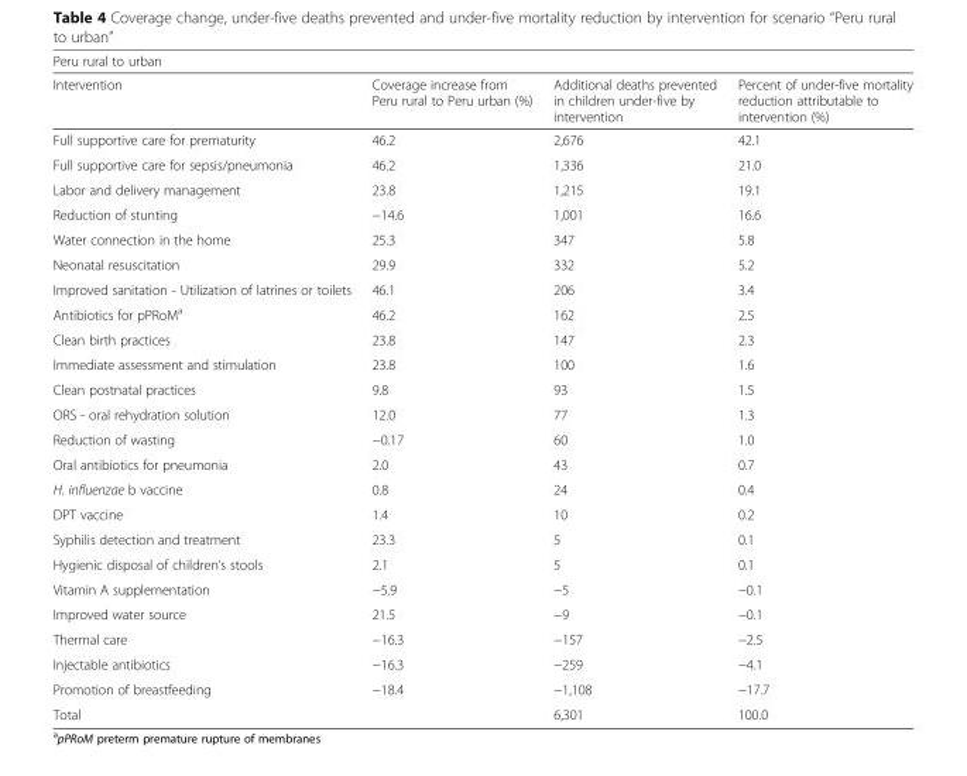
<table><thead><tr><td colspan="4">Peru rural to urban</td></tr><tr><td>Intervention</td><td>Coverage increase from Peru rural to Peru urban (%)</td><td>Additional deaths prevented in children under-five by intervention</td><td>Percent of under-five mortality reduction attributable to intervention (%)</td></tr></thead><tbody><tr><td>Full supportive care for prematurity</td><td>46.2</td><td>2,676</td><td>42.1</td></tr><tr><td>Full supportive care for sepsis/pneumonia</td><td>46.2</td><td>1,336</td><td>21.0</td></tr><tr><td>Labor and delivery management</td><td>23.8</td><td>1,215</td><td>19.1</td></tr><tr><td>Reduction of stunting</td><td>−14.6</td><td>1,001</td><td>16.6</td></tr><tr><td>Water connection in the home</td><td>25.3</td><td>347</td><td>5.8</td></tr><tr><td>Neonatal resuscitation</td><td>29.9</td><td>332</td><td>5.2</td></tr><tr><td>Improved sanitation - Utilization of latrines or toilets</td><td>46.1</td><td>206</td><td>3.4</td></tr><tr><td>Antibiotics for pPRoM<sup>a</sup></td><td>46.2</td><td>162</td><td>2.5</td></tr><tr><td>Clean birth practices</td><td>23.8</td><td>147</td><td>2.3</td></tr><tr><td>Immediate assessment and stimulation</td><td>23.8</td><td>100</td><td>1.6</td></tr><tr><td>Clean postnatal practices</td><td>9.8</td><td>93</td><td>1.5</td></tr><tr><td>ORS - oral rehydration solution</td><td>12.0</td><td>77</td><td>1.3</td></tr><tr><td>Reduction of wasting</td><td>−0.17</td><td>60</td><td>1.0</td></tr><tr><td>Oral antibiotics for pneumonia</td><td>2.0</td><td>43</td><td>0.7</td></tr><tr><td>H. influenzae b vaccine</td><td>0.8</td><td>24</td><td>0.4</td></tr><tr><td>DPT vaccine</td><td>1.4</td><td>10</td><td>0.2</td></tr><tr><td>Syphilis detection and treatment</td><td>23.3</td><td>5</td><td>0.1</td></tr><tr><td>Hygienic disposal of children’s stools</td><td>2.1</td><td>5</td><td>0.1</td></tr><tr><td>Vitamin A supplementation</td><td>−5.9</td><td>−5</td><td>−0.1</td></tr><tr><td>Improved water source</td><td>21.5</td><td>−9</td><td>−0.1</td></tr><tr><td>Thermal care</td><td>−16.3</td><td>−157</td><td>−2.5</td></tr><tr><td>Injectable antibiotics</td><td>−16.3</td><td>−259</td><td>−4.1</td></tr><tr><td>Promotion of breastfeeding</td><td>−18.4</td><td>−1,108</td><td>−17.7</td></tr><tr><td>Total</td><td></td><td>6,301</td><td>100.0</td></tr></tbody></table>